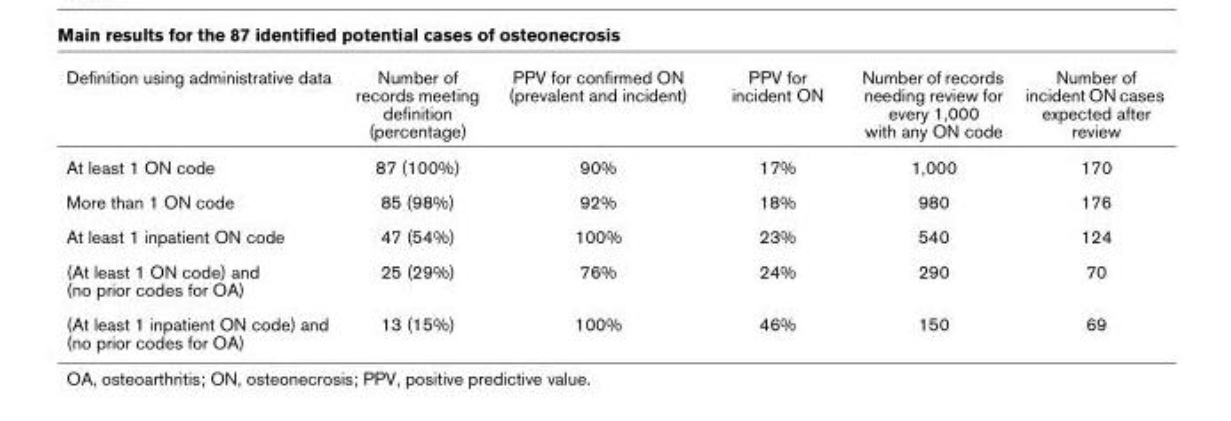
<table><thead><tr><td>Definition using administrative data</td><td>Number of records meeting definition (percentage)</td><td>PPV for confirmed ON (prevalent and incident)</td><td>PPV for incident ON</td><td>Number of records needing review for every 1,000 with any ON code</td><td>Number of incident ON cases expected after review</td></tr></thead><tbody><tr><td>At least 1 ON code</td><td>87 (100%)</td><td>90%</td><td>17%</td><td>1,000</td><td>170</td></tr><tr><td>More than 1 ON code</td><td>85 (98%)</td><td>92%</td><td>18%</td><td>980</td><td>176</td></tr><tr><td>At least 1 inpatient ON code</td><td>47 (54%)</td><td>100%</td><td>23%</td><td>540</td><td>124</td></tr><tr><td>(At least 1 ON code) and (no prior codes for OA)</td><td>25 (29%)</td><td>76%</td><td>24%</td><td>290</td><td>70</td></tr><tr><td>(At least 1 inpatient ON code) and (no prior codes for OA)</td><td>13 (15%)</td><td>100%</td><td>46%</td><td>150</td><td>69</td></tr></tbody></table>